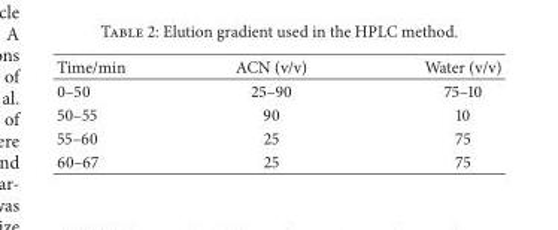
<table><thead><tr><td>Time/min</td><td>ACN (v/v)</td><td>Water (v/v)</td></tr></thead><tbody><tr><td>0–50</td><td>25–90</td><td>75–10</td></tr><tr><td>50–55</td><td>90</td><td>10</td></tr><tr><td>55–60</td><td>25</td><td>75</td></tr><tr><td>60–67</td><td>25</td><td>75</td></tr></tbody></table>